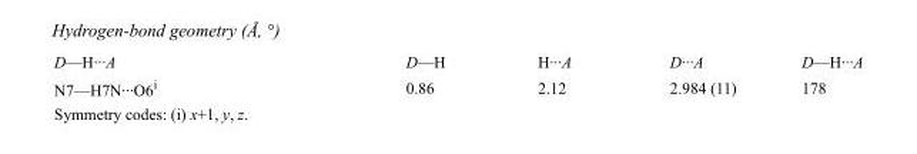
<table><tbody><tr><td>D—H···A</td><td>D—H</td><td>H···A</td><td>D···A</td><td>D—H···A</td></tr><tr><td>N7—H7N···O6<sup>i</sup></td><td>0.86</td><td>2.12</td><td>2.984 (11)</td><td>178</td></tr></tbody></table>